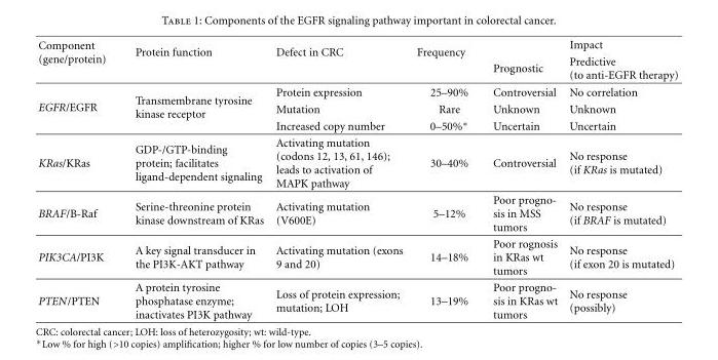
<table><thead><tr><td rowspan="2">Component (gene/protein)</td><td rowspan="2">Protein function</td><td rowspan="2">Defect in CRC</td><td rowspan="2">Frequency</td><td colspan="2">Impact</td></tr><tr><td>Prognostic</td><td>Predictive (to anti-EGFR therapy)</td></tr></thead><tbody><tr><td rowspan="3">EGFR/EGFR</td><td rowspan="3">Transmembrane tyrosine kinase receptor</td><td>Protein expression</td><td>25–90%</td><td>Controversial</td><td>No correlation</td></tr><tr><td>Mutation</td><td>Rare</td><td>Unknown</td><td>Unknown</td></tr><tr><td>Increased copy number</td><td>0–50%∗</td><td>Uncertain</td><td>Uncertain</td></tr><tr><td>KRas/KRas</td><td>GDP-/GTP-binding protein; facilitates ligand-dependent signaling</td><td>Activating mutation (codons 12, 13, 61, 146); leads to activation of MAPK pathway</td><td>30–40%</td><td>Controversial</td><td>No response (if KRas is mutated)</td></tr><tr><td>BRAF/B-Raf</td><td>Serine-threonine protein kinase downstream of KRas</td><td>Activating mutation (V600E)</td><td>5–12%</td><td>Poor progno- sis in MSS tumors</td><td>No response (if BRAF is mutated)</td></tr><tr><td>PIK3CA/PI3K</td><td>A key signal transducer in the PI3K-AKT pathway</td><td>Activating mutation (exons 9 and 20)</td><td>14–18%</td><td>Poor rognosis in KRas wt tumors</td><td>No response (if exon 20 is mutated)</td></tr><tr><td>PTEN/PTEN</td><td>A protein tyrosine phosphatase enzyme; inactivates PI3K pathway</td><td>Loss of protein expression; mutation; LOH</td><td>13–19%</td><td>Poor progno- sis in KRas wt tumors</td><td>No response (possibly)</td></tr></tbody></table>